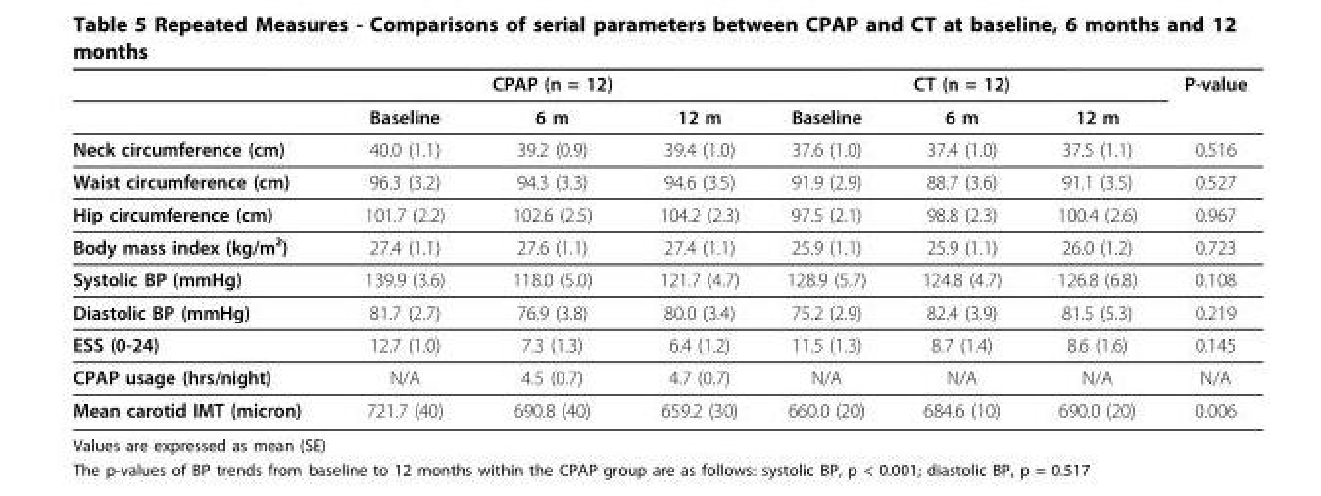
<table><thead><tr><td rowspan="2"></td><td rowspan="2">Baseline</td><td rowspan="2">CPAP (n = 12) 6 m</td><td rowspan="2">12 m</td><td rowspan="2">Baseline</td><td rowspan="2">CT (n = 12) 6 m</td><td rowspan="2">12 m</td><td rowspan="2">P-value</td></tr><tr></tr></thead><tbody><tr><td>Neck circumference (cm)</td><td>40.0 (1.1)</td><td>39.2 (0.9)</td><td>39.4 (1.0)</td><td>37.6 (1.0)</td><td>37.4 (1.0)</td><td>37.5 (1.1)</td><td>0.516</td></tr><tr><td>Waist circumference (cm)</td><td>96.3 (3.2)</td><td>94.3 (3.3)</td><td>94.6 (3.5)</td><td>91.9 (2.9)</td><td>88.7 (3.6)</td><td>91.1 (3.5)</td><td>0.527</td></tr><tr><td>Hip circumference (cm)</td><td>101.7 (2.2)</td><td>102.6 (2.5)</td><td>104.2 (2.3)</td><td>97.5 (2.1)</td><td>98.8 (2.3)</td><td>100.4 (2.6)</td><td>0.967</td></tr><tr><td>Body mass index (kg/m²)</td><td>27.4 (1.1)</td><td>27.6 (1.1)</td><td>27.4 (1.1)</td><td>25.9 (1.1)</td><td>25.9 (1.1)</td><td>26.0 (1.2)</td><td>0.723</td></tr><tr><td>Systolic BP (mmHg)</td><td>139.9 (3.6)</td><td>118.0 (5.0)</td><td>121.7 (4.7)</td><td>128.9 (5.7)</td><td>124.8 (4.7)</td><td>126.8 (6.8)</td><td>0.108</td></tr><tr><td>Diastolic BP (mmHg)</td><td>81.7 (2.7)</td><td>76.9 (3.8)</td><td>80.0 (3.4)</td><td>75.2 (2.9)</td><td>82.4 (3.9)</td><td>81.5 (5.3)</td><td>0.219</td></tr><tr><td>ESS (0-24)</td><td>12.7 (1.0)</td><td>7.3 (1.3)</td><td>6.4 (1.2)</td><td>11.5 (1.3)</td><td>8.7 (1.4)</td><td>8.6 (1.6)</td><td>0.145</td></tr><tr><td>CPAP usage (hrs/night)</td><td>N/A</td><td>4.5 (0.7)</td><td>4.7 (0.7)</td><td>N/A</td><td>N/A</td><td>N/A</td><td>N/A</td></tr><tr><td>Mean carotid IMT (micron)</td><td>721.7 (40)</td><td>690.8 (40)</td><td>659.2 (30)</td><td>660.0 (20)</td><td>684.6 (10)</td><td>690.0 (20)</td><td>0.006</td></tr></tbody></table>